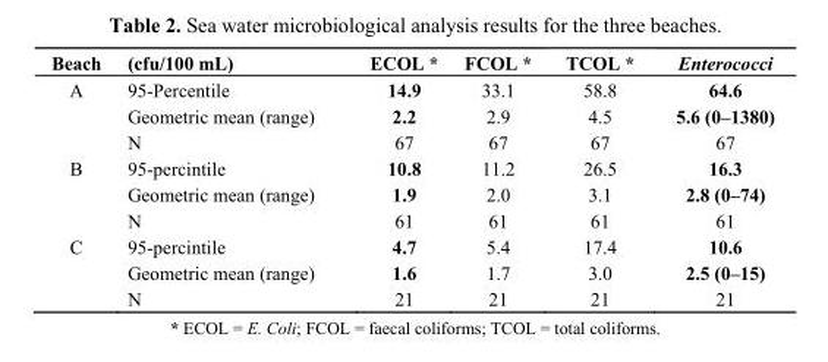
<table><thead><tr><td>Beach</td><td>(cfu/100 mL)</td><td>ECOL *</td><td>FCOL *</td><td>TCOL *</td><td>Enterococci</td></tr></thead><tbody><tr><td rowspan="3">A</td><td>95-Percentile</td><td>14.9</td><td>33.1</td><td>58.8</td><td>64.6</td></tr><tr><td>Geometric mean (range)</td><td>2.2</td><td>2.9</td><td>4.5</td><td>5.6 (0–1380)</td></tr><tr><td>N</td><td>67</td><td>67</td><td>67</td><td>67</td></tr><tr><td rowspan="3">B</td><td>95-percintile</td><td>10.8</td><td>11.2</td><td>26.5</td><td>16.3</td></tr><tr><td>Geometric mean (range)</td><td>1.9</td><td>2.0</td><td>3.1</td><td>2.8 (0–74)</td></tr><tr><td>N</td><td>61</td><td>61</td><td>61</td><td>61</td></tr><tr><td rowspan="3">C</td><td>95-percintile</td><td>4.7</td><td>5.4</td><td>17.4</td><td>10.6</td></tr><tr><td>Geometric mean (range)</td><td>1.6</td><td>1.7</td><td>3.0</td><td>2.5 (0–15)</td></tr><tr><td>N</td><td>21</td><td>21</td><td>21</td><td>21</td></tr></tbody></table>